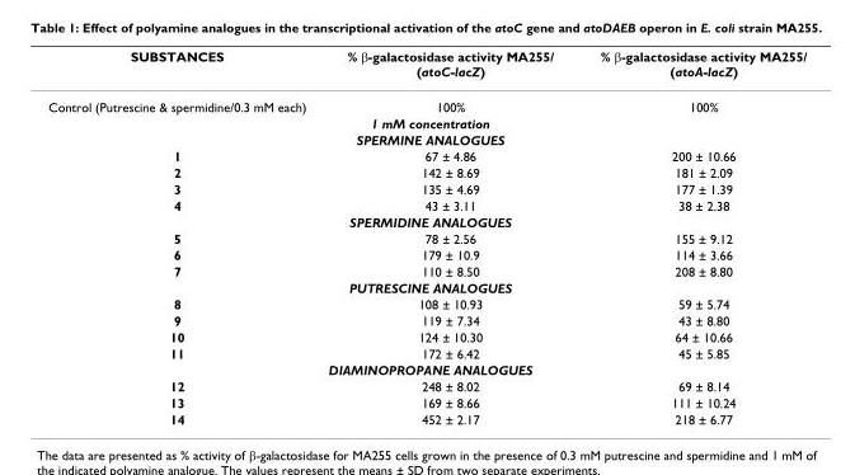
<table><thead><tr><td>SUBSTANCES</td><td>% β-galactosidase activity MA255/ (atoC-lacZ)</td><td>% β-galactosidase activity MA255/ (atoA-lacZ)</td></tr></thead><tbody><tr><td>Control (Putrescine &amp; spermidine/0.3 mM each)</td><td>100%</td><td>100%</td></tr><tr><td colspan="3">1 mM concentration</td></tr><tr><td colspan="3">SPERMINE ANALOGUES</td></tr><tr><td>1</td><td>67 ± 4.86</td><td>200 ± 10.66</td></tr><tr><td>2</td><td>142 ± 8.69</td><td>181 ± 2.09</td></tr><tr><td>3</td><td>135 ± 4.69</td><td>177 ± 1.39</td></tr><tr><td>4</td><td>43 ± 3.11</td><td>38 ± 2.38</td></tr><tr><td colspan="3">SPERMIDINE ANALOGUES</td></tr><tr><td>5</td><td>78 ± 2.56</td><td>155 ± 9.12</td></tr><tr><td>6</td><td>179 ± 10.9</td><td>114 ± 3.66</td></tr><tr><td>7</td><td>110 ± 8.50</td><td>208 ± 8.80</td></tr><tr><td colspan="3">PUTRESCINE ANALOGUES</td></tr><tr><td>8</td><td>108 ± 10.93</td><td>59 ± 5.74</td></tr><tr><td>9</td><td>119 ± 7.34</td><td>43 ± 8.80</td></tr><tr><td>10</td><td>124 ± 10.30</td><td>64 ± 10.66</td></tr><tr><td>11</td><td>172 ± 6.42</td><td>45 ± 5.85</td></tr><tr><td colspan="3">DIAMINOPROPANE ANALOGUES</td></tr><tr><td>12</td><td>248 ± 8.02</td><td>69 ± 8.14</td></tr><tr><td>13</td><td>169 ± 8.66</td><td>111 ± 10.24</td></tr><tr><td>14</td><td>452 ± 2.17</td><td>218 ± 6.77</td></tr></tbody></table>